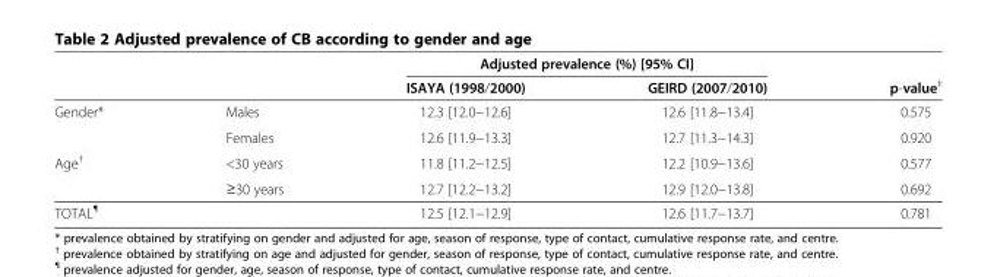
<table><thead><tr><td rowspan="2"></td><td rowspan="2"></td><td colspan="2">Adjusted prevalence (%) [95% CI]</td><td rowspan="2">p-value<sup>‡</sup></td></tr><tr><td>ISAYA (1998/2000)</td><td>GEIRD (2007/2010)</td></tr></thead><tbody><tr><td rowspan="2">Gender*</td><td>Males</td><td>12.3 [12.0−12.6]</td><td>12.6 [11.8−13.4]</td><td>0.575</td></tr><tr><td>Females</td><td>12.6 [11.9−13.3]</td><td>12.7 [11.3−14.3]</td><td>0.920</td></tr><tr><td rowspan="2">Age<sup>†</sup></td><td>&lt;30 years</td><td>11.8 [11.2−12.5]</td><td>12.2 [10.9−13.6]</td><td>0.577</td></tr><tr><td>≥30 years</td><td>12.7 [12.2−13.2]</td><td>12.9 [12.0−13.8]</td><td>0.692</td></tr><tr><td>TOTAL<sup>¶</sup></td><td></td><td>12.5 [12.1−12.9]</td><td>12.6 [11.7−13.7]</td><td>0.781</td></tr></tbody></table>